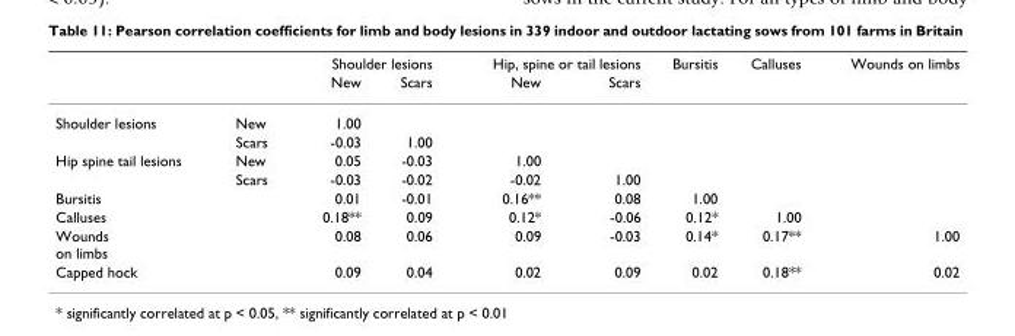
<table><thead><tr><td rowspan="2"></td><td rowspan="2"></td><td colspan="2">Shoulder lesions</td><td colspan="2">Hip, spine or tail lesions</td><td rowspan="2">Bursitis</td><td rowspan="2">Calluses</td><td rowspan="2">Wounds on limbs</td></tr><tr><td>New</td><td>Scars</td><td>New</td><td>Scars</td></tr></thead><tbody><tr><td rowspan="2">Shoulder lesions</td><td>New</td><td>1.00</td><td></td><td></td><td></td><td></td><td></td><td></td></tr><tr><td>Scars</td><td>-0.03</td><td>1.00</td><td></td><td></td><td></td><td></td><td></td></tr><tr><td rowspan="2">Hip spine tail lesions</td><td>New</td><td>0.05</td><td>-0.03</td><td>1.00</td><td></td><td></td><td></td><td></td></tr><tr><td>Scars</td><td>-0.03</td><td>-0.02</td><td>-0.02</td><td>1.00</td><td></td><td></td><td></td></tr><tr><td>Bursitis</td><td></td><td>0.01</td><td>-0.01</td><td>0.16**</td><td>0.08</td><td>1.00</td><td></td><td></td></tr><tr><td>Calluses</td><td></td><td>0.18**</td><td>0.09</td><td>0.12*</td><td>-0.06</td><td>0.12*</td><td>1.00</td><td></td></tr><tr><td>Wounds on limbs</td><td></td><td>0.08</td><td>0.06</td><td>0.09</td><td>-0.03</td><td>0.14*</td><td>0.17**</td><td>1.00</td></tr><tr><td>Capped hock</td><td></td><td>0.09</td><td>0.04</td><td>0.02</td><td>0.09</td><td>0.02</td><td>0.18**</td><td>0.02</td></tr></tbody></table>